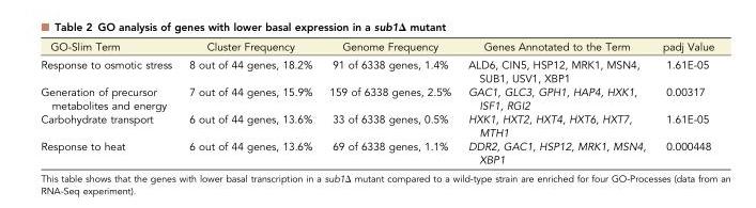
<table><thead><tr><td>GO-Slim Term</td><td>Cluster Frequency</td><td>Genome Frequency</td><td>Genes Annotated to the Term</td><td>padj Value</td></tr></thead><tbody><tr><td>Response to osmotic stress</td><td>8 out of 44 genes, 18.2%</td><td>91 of 6338 genes, 1.4%</td><td>ALD6, CIN5, HSP12, MRK1, MSN4, SUB1, USV1, XBP1</td><td>1.61E-05</td></tr><tr><td>Generation of precursor metabolites and energy</td><td>7 out of 44 genes, 15.9%</td><td>159 of 6338 genes, 2.5%</td><td>GAC1, GLC3, GPH1, HAP4, HXK1, ISF1, RGI2</td><td>0.00317</td></tr><tr><td>Carbohydrate transport</td><td>6 out of 44 genes, 13.6%</td><td>33 of 6338 genes, 0.5%</td><td>HXK1, HXT2, HXT4, HXT6, HXT7, MTH1</td><td>1.61E-05</td></tr><tr><td>Response to heat</td><td>6 out of 44 genes, 13.6%</td><td>69 of 6338 genes, 1.1%</td><td>DDR2, GAC1, HSP12, MRK1, MSN4, XBP1</td><td>0.000448</td></tr></tbody></table>